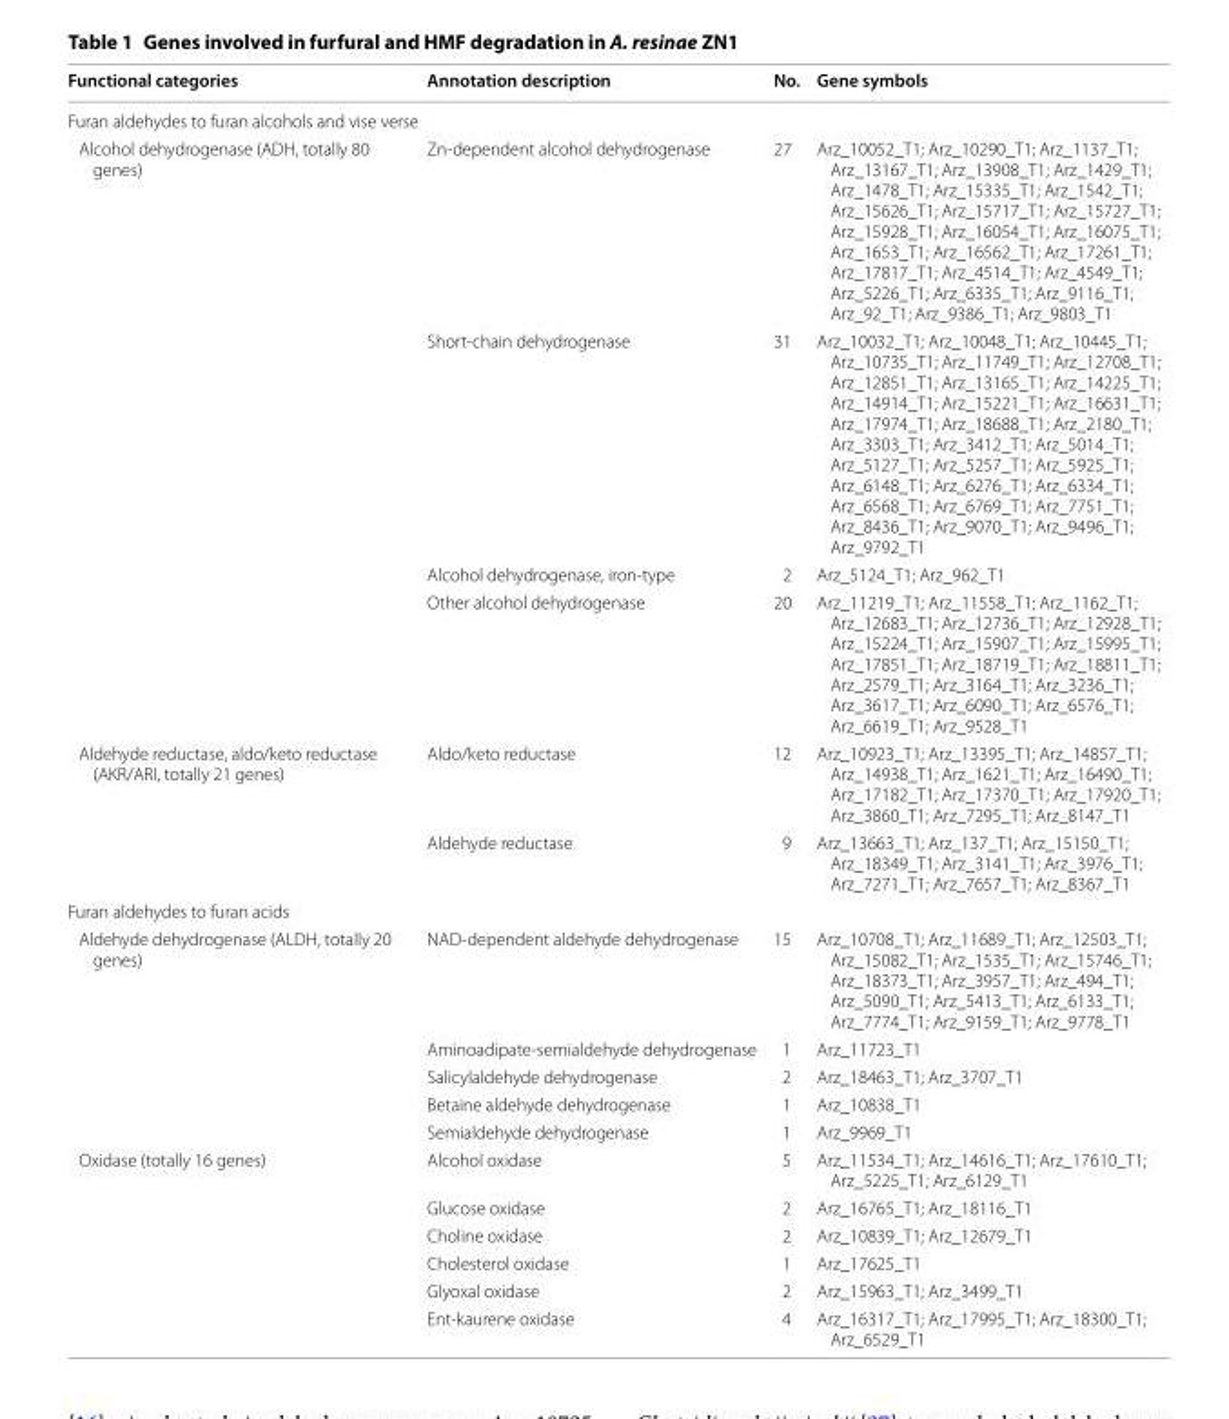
<table><thead><tr><td>Functional categories</td><td>Annotation description</td><td>No.</td><td>Gene symbols</td></tr></thead><tbody><tr><td colspan="4">Furan aldehydes to furan alcohols and vise verse</td></tr><tr><td rowspan="4">Alcohol dehydrogenase (ADH, totally 80 genes)</td><td>Zn-dependent alcohol dehydrogenase</td><td>27</td><td>Arz_10052_T1; Arz_10290_T1; Arz_1137_T1; Arz_13167_T1; Arz_13908_T1; Arz_1429_T1; Arz_1478_T1; Arz_15335_T1; Arz_1542_T1; Arz_15626_T1; Arz_15717_T1; Arz_15727_T1; Arz_15928_T1; Arz_16054_T1; Arz_16075_T1; Arz_1653_T1; Arz_16562_T1; Arz_17261_T1; Arz_17817_T1; Arz_4514_T1; Arz_4549_T1; Arz_5226_T1; Arz_6335_T1; Arz_9116_T1; Arz_92_T1; Arz_9386_T1; Arz_9803_T1</td></tr><tr><td>Short-chain dehydrogenase</td><td>31</td><td>Arz_10032_T1; Arz_10048_T1; Arz_10445_T1; Arz_10735_T1; Arz_11749_T1; Arz_12708_T1; Arz_12851_T1; Arz_13165_T1; Arz_14225_T1; Arz_14914_T1; Arz_15221_T1; Arz_16631_T1; Arz_17974_T1; Arz_18688_T1; Arz_2180_T1; Arz_3303_T1; Arz_3412_T1; Arz_5014_T1; Arz_5127_T1; Arz_5257_T1; Arz_5925_T1; Arz_6148_T1; Arz_6276_T1; Arz_6334_T1; Arz_6568_T1; Arz_6769_T1; Arz_7751_T1; Arz_8436_T1; Arz_9070_T1; Arz_9496_T1; Arz_9792_T1</td></tr><tr><td>Alcohol dehydrogenase, iron-type</td><td>2</td><td>Arz_5124_T1; Arz_962_T1</td></tr><tr><td>Other alcohol dehydrogenase</td><td>20</td><td>Arz_11219_T1; Arz_11558_T1; Arz_1162_T1; Arz_12683_T1; Arz_12736_T1; Arz_12928_T1; Arz_15224_T1; Arz_15907_T1; Arz_15995_T1; Arz_17851_T1; Arz_18719_T1; Arz_18811_T1; Arz_2579_T1; Arz_3164_T1; Arz_3236_T1; Arz_3617_T1; Arz_6090_T1; Arz_6576_T1; Arz_6619_T1; Arz_9528_T1</td></tr><tr><td rowspan="2">Aldehyde reductase, aldo/keto reductase (AKR/ARI, totally 21 genes)</td><td>Aldo/keto reductase</td><td>12</td><td>Arz_10923_T1; Arz_13395_T1; Arz_14857_T1; Arz_14938_T1; Arz_1621_T1; Arz_16490_T1; Arz_17182_T1; Arz_17370_T1; Arz_17920_T1; Arz_3860_T1; Arz_7295_T1; Arz_8147_T1</td></tr><tr><td>Aldehyde reductase</td><td>9</td><td>Arz_13663_T1; Arz_137_T1; Arz_15150_T1; Arz_18349_T1; Arz_3141_T1; Arz_3976_T1; Arz_7271_T1; Arz_7657_T1; Arz_8367_T1</td></tr><tr><td colspan="4">Furan aldehydes to furan acids</td></tr><tr><td rowspan="5">Aldehyde dehydrogenase (ALDH, totally 20 genes)</td><td>NAD-dependent aldehyde dehydrogenase</td><td>15</td><td>Arz_10708_T1; Arz_11689_T1; Arz_12503_T1; Arz_15082_T1; Arz_1535_T1; Arz_15746_T1; Arz_18373_T1; Arz_3957_T1; Arz_494_T1; Arz_5090_T1; Arz_5413_T1; Arz_6133_T1; Arz_7774_T1; Arz_9159_T1; Arz_9778_T1</td></tr><tr><td>Aminoadipate-semialdehyde dehydrogenase</td><td>1</td><td>Arz_11723_T1</td></tr><tr><td>Salicylaldehyde dehydrogenase</td><td>2</td><td>Arz_18463_T1; Arz_3707_T1</td></tr><tr><td>Betaine aldehyde dehydrogenase</td><td>1</td><td>Arz_10838_T1</td></tr><tr><td>Semialdehyde dehydrogenase</td><td>1</td><td>Arz_9969_T1</td></tr><tr><td rowspan="6">Oxidase (totally 16 genes)</td><td>Alcohol oxidase</td><td>5</td><td>Arz_11534_T1; Arz_14616_T1; Arz_17610_T1; Arz_5225_T1; Arz_6129_T1</td></tr><tr><td>Glucose oxidase</td><td>2</td><td>Arz_16765_T1; Arz_18116_T1</td></tr><tr><td>Choline oxidase</td><td>2</td><td>Arz_10839_T1; Arz_12679_T1</td></tr><tr><td>Cholesterol oxidase</td><td>1</td><td>Arz_17625_T1</td></tr><tr><td>Glyoxal oxidase</td><td>2</td><td>Arz_15963_T1; Arz_3499_T1</td></tr><tr><td>Ent-kaurene oxidase</td><td>4</td><td>Arz_16317_T1; Arz_17995_T1; Arz_18300_T1; Arz_6529_T1</td></tr></tbody></table>